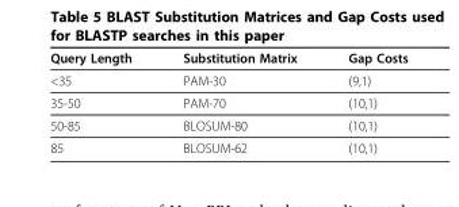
<table><thead><tr><td>Query Length</td><td>Substitution Matrix</td><td>Gap Costs</td></tr></thead><tbody><tr><td>&lt;35</td><td>PAM-30</td><td>(9,1)</td></tr><tr><td>35-50</td><td>PAM-70</td><td>(10,1)</td></tr><tr><td>50-85</td><td>BLOSUM-80</td><td>(10,1)</td></tr><tr><td>85</td><td>BLOSUM-62</td><td>(10,1)</td></tr></tbody></table>